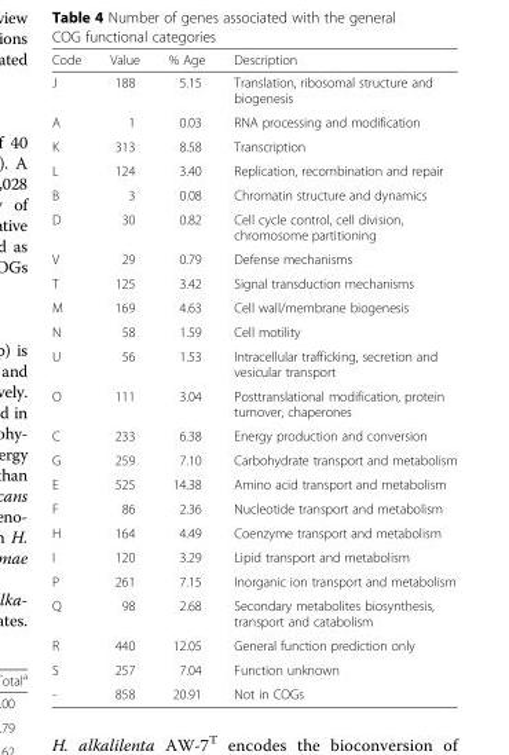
<table><thead><tr><td>Code</td><td>Value</td><td>% Age</td><td>Description</td></tr></thead><tbody><tr><td>J</td><td>188</td><td>5.15</td><td>Translation, ribosomal structure and biogenesis</td></tr><tr><td>A</td><td>1</td><td>0.03</td><td>RNA processing and modification</td></tr><tr><td>K</td><td>313</td><td>8.58</td><td>Transcription</td></tr><tr><td>L</td><td>124</td><td>3.40</td><td>Replication, recombination and repair</td></tr><tr><td>B</td><td>3</td><td>0.08</td><td>Chromatin structure and dynamics</td></tr><tr><td>D</td><td>30</td><td>0.82</td><td>Cell cycle control, cell division, chromosome partitioning</td></tr><tr><td>V</td><td>29</td><td>0.79</td><td>Defense mechanisms</td></tr><tr><td>T</td><td>125</td><td>3.42</td><td>Signal transduction mechanisms</td></tr><tr><td>M</td><td>169</td><td>4.63</td><td>Cell wall/membrane biogenesis</td></tr><tr><td>N</td><td>58</td><td>1.59</td><td>Cell motility</td></tr><tr><td>U</td><td>56</td><td>1.53</td><td>Intracellular trafficking, secretion and vesicular transport</td></tr><tr><td>O</td><td>111</td><td>3.04</td><td>Posttranslational modification, protein turnover, chaperones</td></tr><tr><td>C</td><td>233</td><td>6.38</td><td>Energy production and conversion</td></tr><tr><td>G</td><td>259</td><td>7.10</td><td>Carbohydrate transport and metabolism</td></tr><tr><td>E</td><td>525</td><td>14.38</td><td>Amino acid transport and metabolism</td></tr><tr><td>F</td><td>86</td><td>2.36</td><td>Nucleotide transport and metabolism</td></tr><tr><td>H</td><td>164</td><td>4.49</td><td>Coenzyme transport and metabolism</td></tr><tr><td>I</td><td>120</td><td>3.29</td><td>Lipid transport and metabolism</td></tr><tr><td>P</td><td>261</td><td>7.15</td><td>Inorganic ion transport and metabolism</td></tr><tr><td>Q</td><td>98</td><td>2.68</td><td>Secondary metabolites biosynthesis, transport and catabolism</td></tr><tr><td>R</td><td>440</td><td>12.05</td><td>General function prediction only</td></tr><tr><td>S</td><td>257</td><td>7.04</td><td>Function unknown</td></tr><tr><td>-</td><td>858</td><td>20.91</td><td>Not in COGs</td></tr></tbody></table>